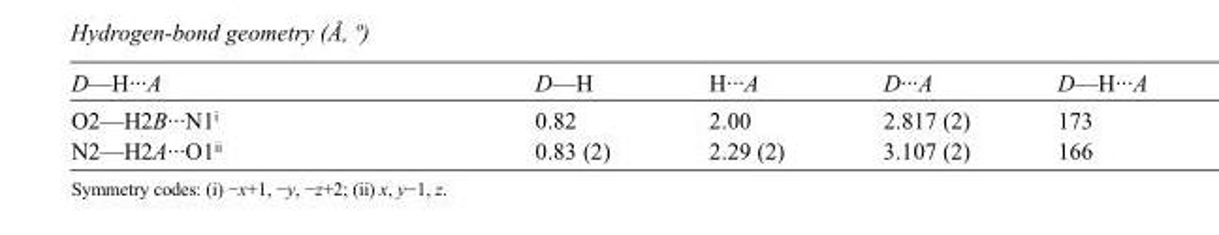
<table><tbody><tr><td>D—H···A</td><td>D—H</td><td>H···A</td><td>D···A</td><td>D—H···A</td></tr><tr><td>O2—H2B···N1<sup>i</sup></td><td>0.82</td><td>2.00</td><td>2.817 (2)</td><td>173</td></tr><tr><td>N2—H2A···O1<sup>ii</sup></td><td>0.83 (2)</td><td>2.29 (2)</td><td>3.107 (2)</td><td>166</td></tr></tbody></table>